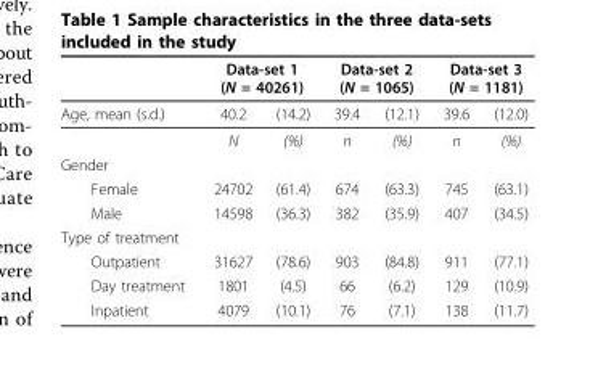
<table><thead><tr><td rowspan="2">Age, mean (s.d.)</td><td colspan="2">Data-set 1 (N = 40261)</td><td colspan="2">Data-set 2 (N = 1065)</td><td colspan="2">Data-set 3 (N = 1181)</td></tr><tr><td>40.2</td><td>(14.2)</td><td>39.4</td><td>(12.1)</td><td>39.6</td><td>(12.0)</td></tr></thead><tbody><tr><td></td><td>N</td><td>(%)</td><td>n</td><td>(%)</td><td>n</td><td>(%)</td></tr><tr><td colspan="7">Gender</td></tr><tr><td>Female</td><td>24702</td><td>(61.4)</td><td>674</td><td>(63.3)</td><td>745</td><td>(63.1)</td></tr><tr><td>Male</td><td>14598</td><td>(36.3)</td><td>382</td><td>(35.9)</td><td>407</td><td>(34.5)</td></tr><tr><td colspan="7">Type of treatment</td></tr><tr><td>Outpatient</td><td>31627</td><td>(78.6)</td><td>903</td><td>(84.8)</td><td>911</td><td>(77.1)</td></tr><tr><td>Day treatment</td><td>1801</td><td>(4.5)</td><td>66</td><td>(6.2)</td><td>129</td><td>(10.9)</td></tr><tr><td>Inpatient</td><td>4079</td><td>(10.1)</td><td>76</td><td>(7.1)</td><td>138</td><td>(11.7)</td></tr></tbody></table>